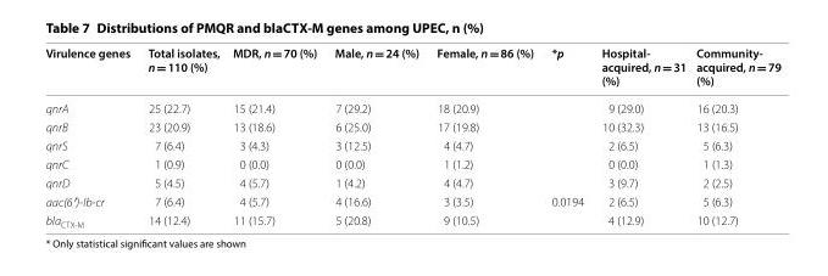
<table><thead><tr><td>Virulence genes</td><td>Total isolates, n = 110 (%)</td><td>MDR, n = 70 (%)</td><td>Male, n = 24 (%)</td><td>Female, n = 86 (%)</td><td>*p</td><td>Hospital‑ acquired, n = 31 (%)</td><td>Community‑ acquired, n = 79 (%)</td></tr></thead><tbody><tr><td>qnrA</td><td>25 (22.7)</td><td>15 (21.4)</td><td>7 (29.2)</td><td>18 (20.9)</td><td></td><td>9 (29.0)</td><td>16 (20.3)</td></tr><tr><td>qnrB</td><td>23 (20.9)</td><td>13 (18.6)</td><td>6 (25.0)</td><td>17 (19.8)</td><td></td><td>10 (32.3)</td><td>13 (16.5)</td></tr><tr><td>qnrS</td><td>7 (6.4)</td><td>3 (4.3)</td><td>3 (12.5)</td><td>4 (4.7)</td><td></td><td>2 (6.5)</td><td>5 (6.3)</td></tr><tr><td>qnrC</td><td>1 (0.9)</td><td>0 (0.0)</td><td>0 (0.0)</td><td>1 (1.2)</td><td></td><td>0 (0.0)</td><td>1 (1.3)</td></tr><tr><td>qnrD</td><td>5 (4.5)</td><td>4 (5.7)</td><td>1 (4.2)</td><td>4 (4.7)</td><td></td><td>3 (9.7)</td><td>2 (2.5)</td></tr><tr><td>aac(6′)‑Ib‑cr</td><td>7 (6.4)</td><td>4 (5.7)</td><td>4 (16.6)</td><td>3 (3.5)</td><td>0.0194</td><td>2 (6.5)</td><td>5 (6.3)</td></tr><tr><td>bla<sub>CTX‑M</sub></td><td>14 (12.4)</td><td>11 (15.7)</td><td>5 (20.8)</td><td>9 (10.5)</td><td></td><td>4 (12.9)</td><td>10 (12.7)</td></tr></tbody></table>